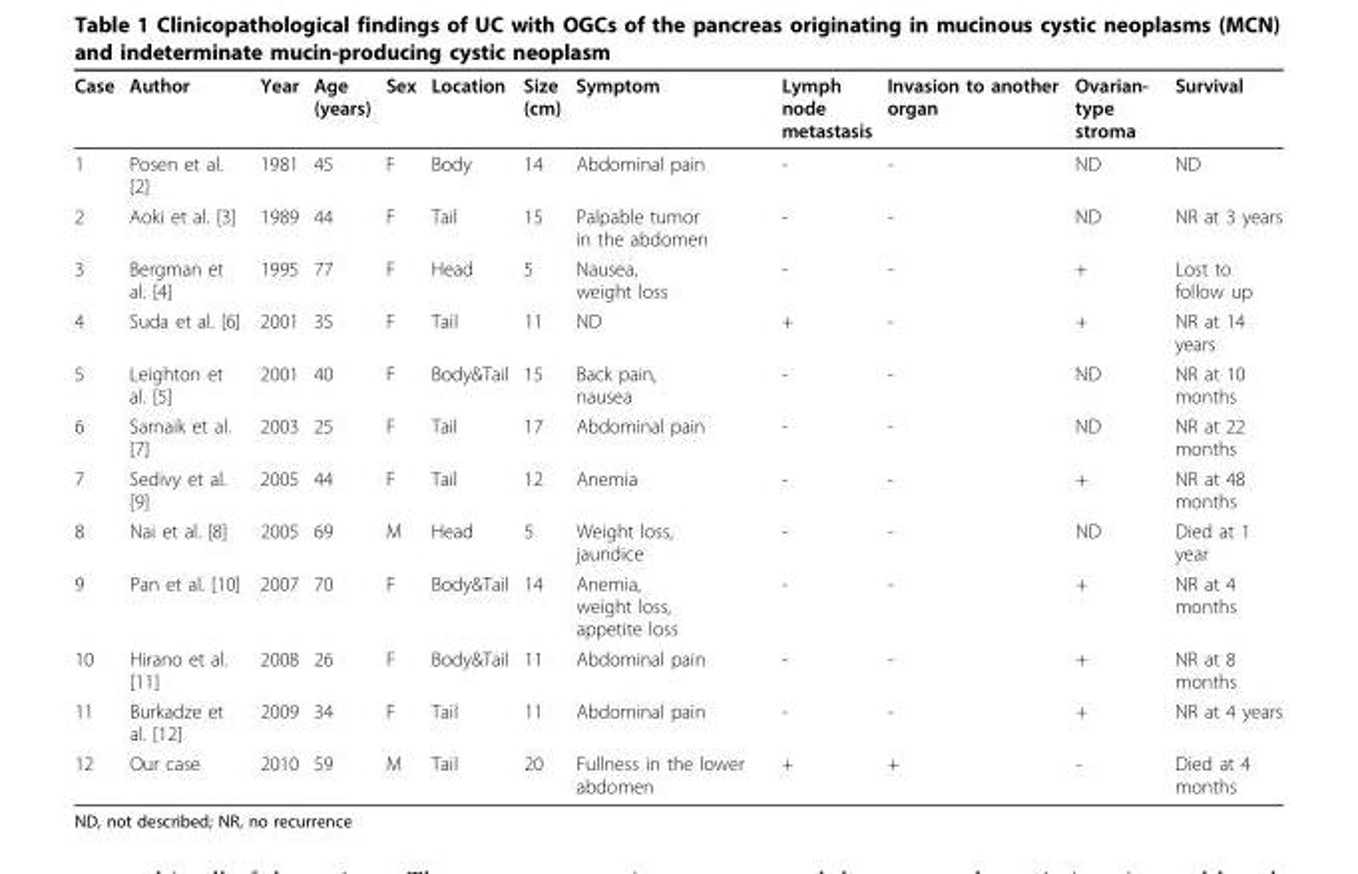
<table><thead><tr><td>Case</td><td>Author</td><td>Year</td><td>Age (years)</td><td>Sex</td><td>Location</td><td>Size (cm)</td><td>Symptom</td><td>Lymph node metastasis</td><td>Invasion to another organ</td><td>Ovarian- type stroma</td><td>Survival</td></tr></thead><tbody><tr><td>1</td><td>Posen et al. [2]</td><td>1981</td><td>45</td><td>F</td><td>Body</td><td>14</td><td>Abdominal pain</td><td>-</td><td>-</td><td>ND</td><td>ND</td></tr><tr><td>2</td><td>Aoki et al. [3]</td><td>1989</td><td>44</td><td>F</td><td>Tail</td><td>15</td><td>Palpable tumor in the abdomen</td><td>-</td><td>-</td><td>ND</td><td>NR at 3 years</td></tr><tr><td>3</td><td>Bergman et al. [4]</td><td>1995</td><td>77</td><td>F</td><td>Head</td><td>5</td><td>Nausea, weight loss</td><td>-</td><td>-</td><td>+</td><td>Lost to follow up</td></tr><tr><td>4</td><td>Suda et al. [6]</td><td>2001</td><td>35</td><td>F</td><td>Tail</td><td>11</td><td>ND</td><td>+</td><td>-</td><td>+</td><td>NR at 14 years</td></tr><tr><td>5</td><td>Leighton et al. [5]</td><td>2001</td><td>40</td><td>F</td><td>Body&amp;Tail</td><td>15</td><td>Back pain, nausea</td><td>-</td><td>-</td><td>ND</td><td>NR at 10 months</td></tr><tr><td>6</td><td>Sarnaik et al. [7]</td><td>2003</td><td>25</td><td>F</td><td>Tail</td><td>17</td><td>Abdominal pain</td><td>-</td><td>-</td><td>ND</td><td>NR at 22 months</td></tr><tr><td>7</td><td>Sedivy et al. [9]</td><td>2005</td><td>44</td><td>F</td><td>Tail</td><td>12</td><td>Anemia</td><td>-</td><td>-</td><td>+</td><td>NR at 48 months</td></tr><tr><td>8</td><td>Nai et al. [8]</td><td>2005</td><td>69</td><td>M</td><td>Head</td><td>5</td><td>Weight loss, jaundice</td><td>-</td><td>-</td><td>ND</td><td>Died at 1 year</td></tr><tr><td>9</td><td>Pan et al. [10]</td><td>2007</td><td>70</td><td>F</td><td>Body&amp;Tail</td><td>14</td><td>Anemia, weight loss, appetite loss</td><td>-</td><td>-</td><td>+</td><td>NR at 4 months</td></tr><tr><td>10</td><td>Hirano et al. [11]</td><td>2008</td><td>26</td><td>F</td><td>Body&amp;Tail</td><td>11</td><td>Abdominal pain</td><td>-</td><td>-</td><td>+</td><td>NR at 8 months</td></tr><tr><td>11</td><td>Burkadze et al. [12]</td><td>2009</td><td>34</td><td>F</td><td>Tail</td><td>11</td><td>Abdominal pain</td><td>-</td><td>-</td><td>+</td><td>NR at 4 years</td></tr><tr><td>12</td><td>Our case</td><td>2010</td><td>59</td><td>M</td><td>Tail</td><td>20</td><td>Fullness in the lower abdomen</td><td>+</td><td>+</td><td>-</td><td>Died at 4 months</td></tr></tbody></table>